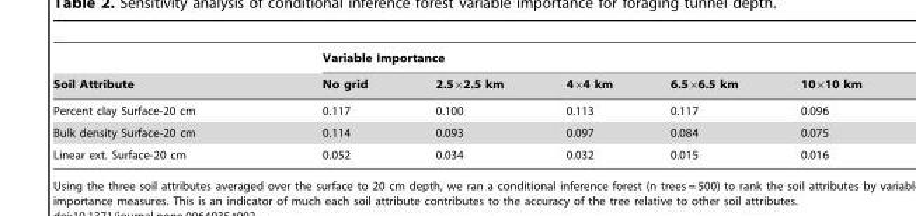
<table><thead><tr><td rowspan="2">Soil Attribute</td><td colspan="5">Variable Importance</td></tr><tr><td>No grid</td><td>2.5×2.5 km</td><td>4×4 km</td><td>6.5×6.5 km</td><td>10×10 km</td></tr></thead><tbody><tr><td>Percent clay Surface-20 cm</td><td>0.117</td><td>0.100</td><td>0.113</td><td>0.117</td><td>0.096</td></tr><tr><td>Bulk density Surface-20 cm</td><td>0.114</td><td>0.093</td><td>0.097</td><td>0.084</td><td>0.075</td></tr><tr><td>Linear ext. Surface-20 cm</td><td>0.052</td><td>0.034</td><td>0.032</td><td>0.015</td><td>0.016</td></tr></tbody></table>